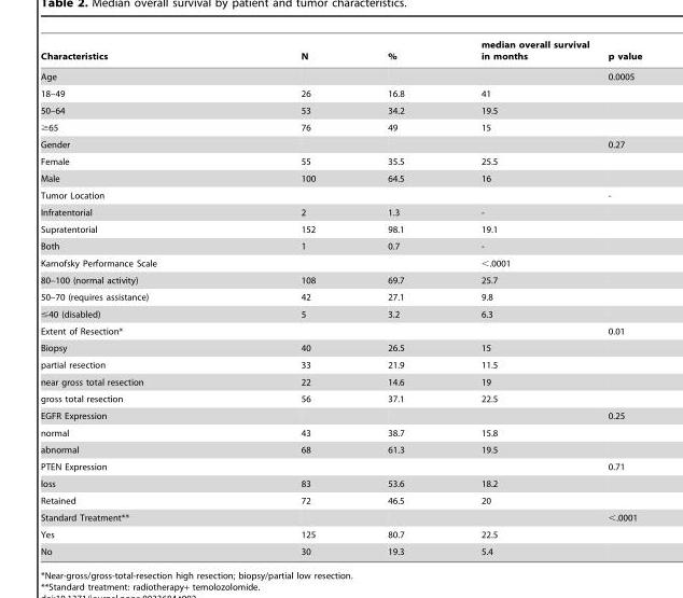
<table><thead><tr><td>Characteristics</td><td>N</td><td>%</td><td>median overall survival in months</td><td>p value</td></tr></thead><tbody><tr><td>Age</td><td></td><td></td><td></td><td>0.0005</td></tr><tr><td>18–49</td><td>26</td><td>16.8</td><td>41</td><td></td></tr><tr><td>50–64</td><td>53</td><td>34.2</td><td>19.5</td><td></td></tr><tr><td>≥65</td><td>76</td><td>49</td><td>15</td><td></td></tr><tr><td>Gender</td><td></td><td></td><td></td><td>0.27</td></tr><tr><td>Female</td><td>55</td><td>35.5</td><td>25.5</td><td></td></tr><tr><td>Male</td><td>100</td><td>64.5</td><td>16</td><td></td></tr><tr><td>Tumor Location</td><td></td><td></td><td></td><td>-</td></tr><tr><td>Infratentorial</td><td>2</td><td>1.3</td><td>-</td><td></td></tr><tr><td>Supratentorial</td><td>152</td><td>98.1</td><td>19.1</td><td></td></tr><tr><td>Both</td><td>1</td><td>0.7</td><td>-</td><td></td></tr><tr><td>Karnofsky Performance Scale</td><td></td><td></td><td>&lt;.0001</td><td></td></tr><tr><td>80–100 (normal activity)</td><td>108</td><td>69.7</td><td>25.7</td><td></td></tr><tr><td>50–70 (requires assistance)</td><td>42</td><td>27.1</td><td>9.8</td><td></td></tr><tr><td>≤40 (disabled)</td><td>5</td><td>3.2</td><td>6.3</td><td></td></tr><tr><td>Extent of Resection*</td><td></td><td></td><td></td><td>0.01</td></tr><tr><td>Biopsy</td><td>40</td><td>26.5</td><td>15</td><td></td></tr><tr><td>partial resection</td><td>33</td><td>21.9</td><td>11.5</td><td></td></tr><tr><td>near gross total resection</td><td>22</td><td>14.6</td><td>19</td><td></td></tr><tr><td>gross total resection</td><td>56</td><td>37.1</td><td>22.5</td><td></td></tr><tr><td>EGFR Expression</td><td></td><td></td><td></td><td>0.25</td></tr><tr><td>normal</td><td>43</td><td>38.7</td><td>15.8</td><td></td></tr><tr><td>abnormal</td><td>68</td><td>61.3</td><td>19.5</td><td></td></tr><tr><td>PTEN Expression</td><td></td><td></td><td></td><td>0.71</td></tr><tr><td>loss</td><td>83</td><td>53.6</td><td>18.2</td><td></td></tr><tr><td>Retained</td><td>72</td><td>46.5</td><td>20</td><td></td></tr><tr><td>Standard Treatment**</td><td></td><td></td><td></td><td>&lt;.0001</td></tr><tr><td>Yes</td><td>125</td><td>80.7</td><td>22.5</td><td></td></tr><tr><td>No</td><td>30</td><td>19.3</td><td>5.4</td><td></td></tr></tbody></table>